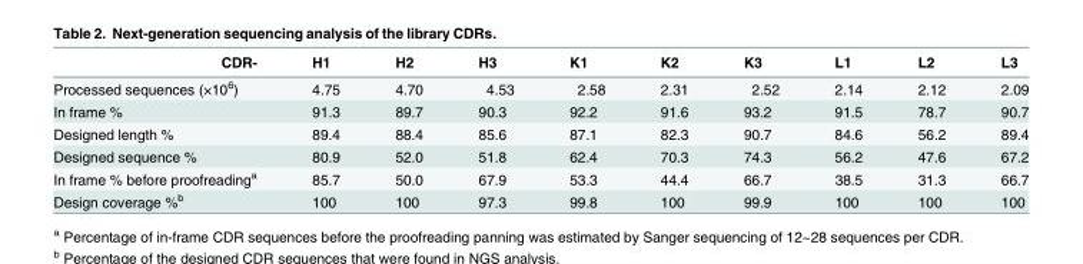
<table><thead><tr><td>CDR-</td><td>H1</td><td>H2</td><td>H3</td><td>K1</td><td>K2</td><td>K3</td><td>L1</td><td>L2</td><td>L3</td></tr></thead><tbody><tr><td>Processed sequences (×10<sup>6</sup>)</td><td>4.75</td><td>4.70</td><td>4.53</td><td>2.58</td><td>2.31</td><td>2.52</td><td>2.14</td><td>2.12</td><td>2.09</td></tr><tr><td>In frame %</td><td>91.3</td><td>89.7</td><td>90.3</td><td>92.2</td><td>91.6</td><td>93.2</td><td>91.5</td><td>78.7</td><td>90.7</td></tr><tr><td>Designed length %</td><td>89.4</td><td>88.4</td><td>85.6</td><td>87.1</td><td>82.3</td><td>90.7</td><td>84.6</td><td>56.2</td><td>89.4</td></tr><tr><td>Designed sequence %</td><td>80.9</td><td>52.0</td><td>51.8</td><td>62.4</td><td>70.3</td><td>74.3</td><td>56.2</td><td>47.6</td><td>67.2</td></tr><tr><td>In frame % before proofreading<sup>a</sup></td><td>85.7</td><td>50.0</td><td>67.9</td><td>53.3</td><td>44.4</td><td>66.7</td><td>38.5</td><td>31.3</td><td>66.7</td></tr><tr><td>Design coverage %<sup>b</sup></td><td>100</td><td>100</td><td>97.3</td><td>99.8</td><td>100</td><td>99.9</td><td>100</td><td>100</td><td>100</td></tr></tbody></table>